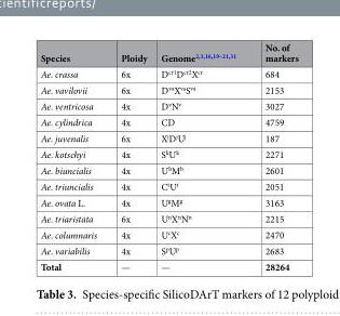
<table><thead><tr><td>Species</td><td>Ploidy</td><td>Genome<sup>2,3,16,19–21,31</sup></td><td>No. of markers</td></tr></thead><tbody><tr><td>Ae. crassa</td><td>6x</td><td>D<sup>cr1</sup>D<sup>cr2</sup>X<sup>cr</sup></td><td>684</td></tr><tr><td>Ae. vavilovii</td><td>6x</td><td>D<sup>va</sup>X<sup>va</sup>S<sup>va</sup></td><td>2153</td></tr><tr><td>Ae. ventricosa</td><td>4x</td><td>D<sup>v</sup>N<sup>v</sup></td><td>3027</td></tr><tr><td>Ae. cylindrica</td><td>4x</td><td>CD</td><td>4759</td></tr><tr><td>Ae. juvenalis</td><td>6x</td><td>X<sup>j</sup>D<sup>j</sup>U<sup>j</sup></td><td>187</td></tr><tr><td>Ae. kotschyi</td><td>4x</td><td>S<sup>k</sup>U<sup>k</sup></td><td>2271</td></tr><tr><td>Ae. biuncialis</td><td>4x</td><td>U<sup>b</sup>M<sup>b</sup></td><td>2601</td></tr><tr><td>Ae. triuncialis</td><td>4x</td><td>C<sup>t</sup>U<sup>t</sup></td><td>2051</td></tr><tr><td>Ae. ovata L.</td><td>4x</td><td>U<sup>g</sup>M<sup>g</sup></td><td>3163</td></tr><tr><td>Ae. triaristata</td><td>6x</td><td>U<sup>n</sup>X<sup>n</sup>N<sup>n</sup></td><td>2215</td></tr><tr><td>Ae. columnaris</td><td>4x</td><td>U<sup>c</sup>X<sup>c</sup></td><td>2470</td></tr><tr><td>Ae. variabilis</td><td>4x</td><td>S<sup>p</sup>U<sup>p</sup></td><td>2683</td></tr><tr><td>Total</td><td>—</td><td>—</td><td>28264</td></tr></tbody></table>